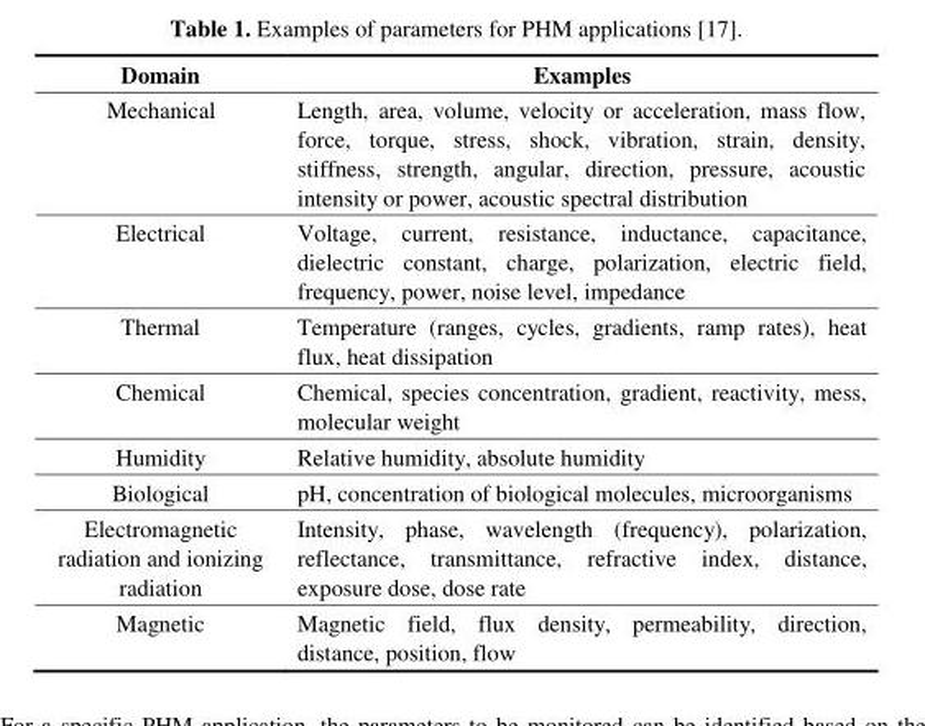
<table><thead><tr><td>Domain</td><td>Examples</td></tr></thead><tbody><tr><td>Mechanical</td><td>Length, area, volume, velocity or acceleration, mass flow, force, torque, stress, shock, vibration, strain, density, stiffness, strength, angular, direction, pressure, acoustic intensity or power, acoustic spectral distribution</td></tr><tr><td>Electrical</td><td>Voltage, current, resistance, inductance, capacitance, dielectric constant, charge, polarization, electric field, frequency, power, noise level, impedance</td></tr><tr><td>Thermal</td><td>Temperature (ranges, cycles, gradients, ramp rates), heat flux, heat dissipation</td></tr><tr><td>Chemical</td><td>Chemical, species concentration, gradient, reactivity, mess, molecular weight</td></tr><tr><td>Humidity</td><td>Relative humidity, absolute humidity</td></tr><tr><td>Biological</td><td>pH, concentration of biological molecules, microorganisms</td></tr><tr><td>Electromagnetic radiation and ionizing radiation</td><td>Intensity, phase, wavelength (frequency), polarization, reflectance, transmittance, refractive index, distance, exposure dose, dose rate</td></tr><tr><td>Magnetic</td><td>Magnetic field, flux density, permeability, direction, distance, position, flow</td></tr></tbody></table>